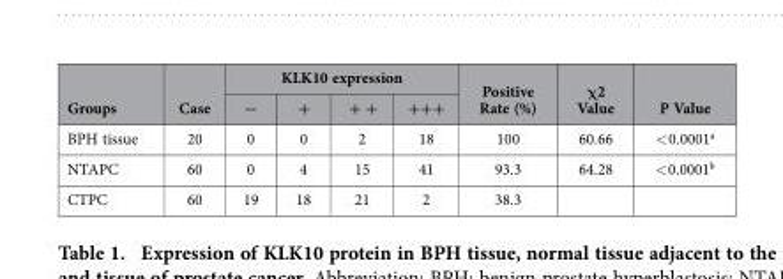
<table><thead><tr><td rowspan="2">Groups</td><td rowspan="2">Case</td><td colspan="4">KLK10 expression</td><td rowspan="2">Positive Rate (%)</td><td rowspan="2">χ2 Value</td><td rowspan="2">P Value</td></tr><tr><td>−</td><td>+</td><td>+ +</td><td>+++</td></tr></thead><tbody><tr><td>BPH tissue</td><td>20</td><td>0</td><td>0</td><td>2</td><td>18</td><td>100</td><td>60.66</td><td>&lt; 0.0001<sup>a</sup></td></tr><tr><td>NTAPC</td><td>60</td><td>0</td><td>4</td><td>15</td><td>41</td><td>93.3</td><td>64.28</td><td>&lt; 0.0001<sup>b</sup></td></tr><tr><td>CTPC</td><td>60</td><td>19</td><td>18</td><td>21</td><td>2</td><td>38.3</td><td></td><td></td></tr></tbody></table>